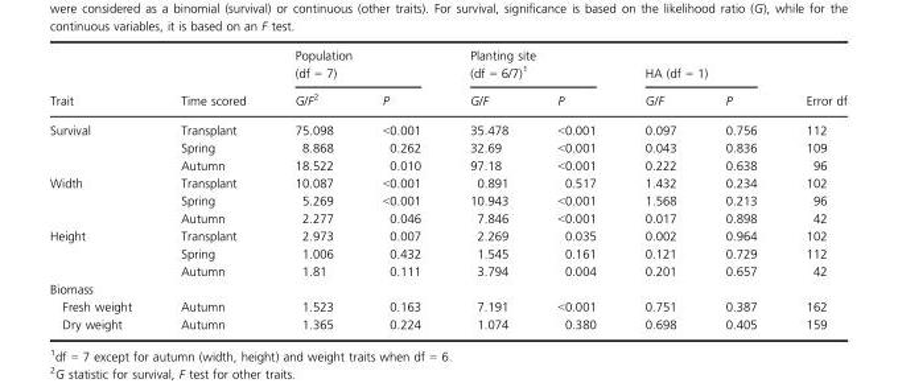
<table><thead><tr><td rowspan="2">Trait</td><td rowspan="2">Time scored</td><td colspan="2">Population (df = 7)</td><td colspan="2">Planting site (df = 6/7)1</td><td colspan="2">HA (df = 1)</td><td rowspan="2">Error df</td></tr><tr><td>G/F2</td><td>P</td><td>G/F</td><td>P</td><td>G/F</td><td>P</td></tr></thead><tbody><tr><td rowspan="3">Survival</td><td>Transplant</td><td>75.098</td><td>&lt;0.001</td><td>35.478</td><td>&lt;0.001</td><td>0.097</td><td>0.756</td><td>112</td></tr><tr><td>Spring</td><td>8.868</td><td>0.262</td><td>32.69</td><td>&lt;0.001</td><td>0.043</td><td>0.836</td><td>109</td></tr><tr><td>Autumn</td><td>18.522</td><td>0.010</td><td>97.18</td><td>&lt;0.001</td><td>0.222</td><td>0.638</td><td>96</td></tr><tr><td rowspan="3">Width</td><td>Transplant</td><td>10.087</td><td>&lt;0.001</td><td>0.891</td><td>0.517</td><td>1.432</td><td>0.234</td><td>102</td></tr><tr><td>Spring</td><td>5.269</td><td>&lt;0.001</td><td>10.943</td><td>&lt;0.001</td><td>1.568</td><td>0.213</td><td>96</td></tr><tr><td>Autumn</td><td>2.277</td><td>0.046</td><td>7.846</td><td>&lt;0.001</td><td>0.017</td><td>0.898</td><td>42</td></tr><tr><td rowspan="3">Height</td><td>Transplant</td><td>2.973</td><td>0.007</td><td>2.269</td><td>0.035</td><td>0.002</td><td>0.964</td><td>102</td></tr><tr><td>Spring</td><td>1.006</td><td>0.432</td><td>1.545</td><td>0.161</td><td>0.121</td><td>0.729</td><td>112</td></tr><tr><td>Autumn</td><td>1.81</td><td>0.111</td><td>3.794</td><td>0.004</td><td>0.201</td><td>0.657</td><td>42</td></tr><tr><td colspan="9">Biomass</td></tr><tr><td>Fresh weight</td><td>Autumn</td><td>1.523</td><td>0.163</td><td>7.191</td><td>&lt;0.001</td><td>0.751</td><td>0.387</td><td>162</td></tr><tr><td>Dry weight</td><td>Autumn</td><td>1.365</td><td>0.224</td><td>1.074</td><td>0.380</td><td>0.698</td><td>0.405</td><td>159</td></tr></tbody></table>